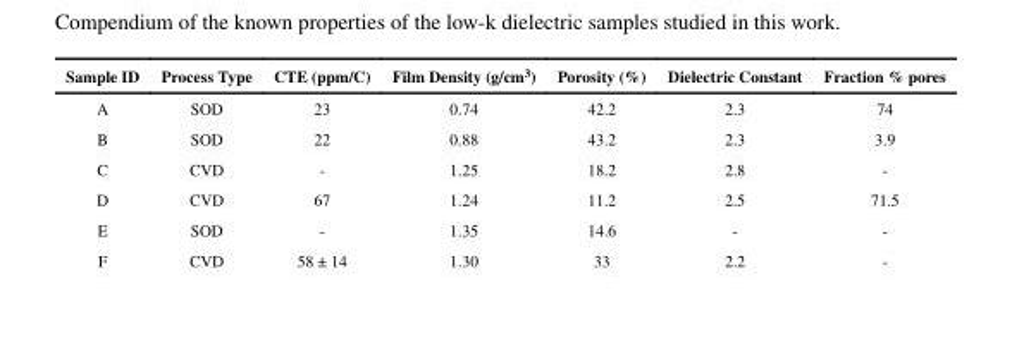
<table><thead><tr><td>Sample ID</td><td>Process Type</td><td>CTE (ppm/C)</td><td>Film Density (g/cm<sup>3</sup>)</td><td>Porosity (%)</td><td>Dielectric Constant</td><td>Fraction % pores</td></tr></thead><tbody><tr><td>A</td><td>SOD</td><td>23</td><td>0.74</td><td>42.2</td><td>2.3</td><td>74</td></tr><tr><td>B</td><td>SOD</td><td>22</td><td>0.88</td><td>43.2</td><td>2.3</td><td>3.9</td></tr><tr><td>C</td><td>CVD</td><td>-</td><td>1.25</td><td>18.2</td><td>2.8</td><td>-</td></tr><tr><td>D</td><td>CVD</td><td>67</td><td>1.24</td><td>11.2</td><td>2.5</td><td>71.5</td></tr><tr><td>E</td><td>SOD</td><td>-</td><td>1.35</td><td>14.6</td><td>-</td><td>-</td></tr><tr><td>F</td><td>CVD</td><td>58 ± 14</td><td>1.30</td><td>33</td><td>2.2</td><td>-</td></tr></tbody></table>